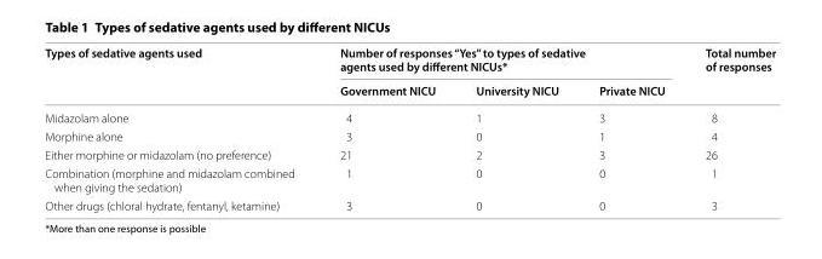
<table><thead><tr><td rowspan="2">Types of sedative agents used</td><td colspan="3">Number of responses “Yes” to types of sedative agents used by different NICUs*</td><td rowspan="2">Total number of responses</td></tr><tr><td>Government NICU</td><td>University NICU</td><td>Private NICU</td></tr></thead><tbody><tr><td>Midazolam alone</td><td>4</td><td>1</td><td>3</td><td>8</td></tr><tr><td>Morphine alone</td><td>3</td><td>0</td><td>1</td><td>4</td></tr><tr><td>Either morphine or midazolam (no preference)</td><td>21</td><td>2</td><td>3</td><td>26</td></tr><tr><td>Combination (morphine and midazolam combined when giving the sedation)</td><td>1</td><td>0</td><td>0</td><td>1</td></tr><tr><td>Other drugs (chloral hydrate, fentanyl, ketamine)</td><td>3</td><td>0</td><td>0</td><td>3</td></tr></tbody></table>